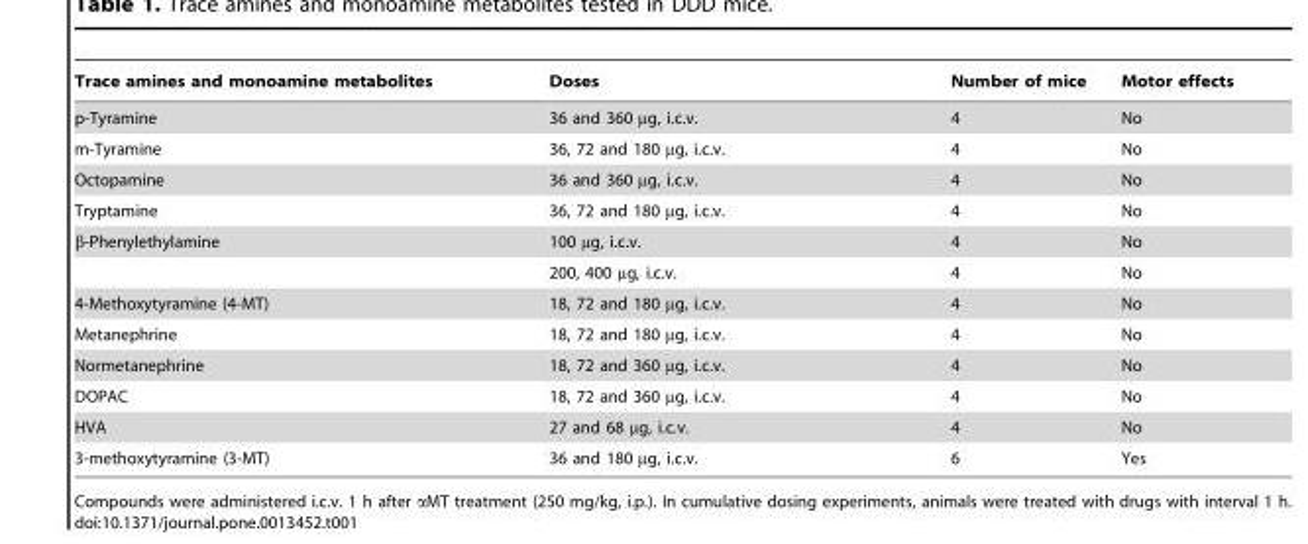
<table><thead><tr><td>Trace amines and monoamine metabolites</td><td>Doses</td><td>Number of mice</td><td>Motor effects</td></tr></thead><tbody><tr><td>p-Tyramine</td><td>36 and 360 µg, i.c.v.</td><td>4</td><td>No</td></tr><tr><td>m-Tyramine</td><td>36, 72 and 180 µg, i.c.v.</td><td>4</td><td>No</td></tr><tr><td>Octopamine</td><td>36 and 360 µg, i.c.v.</td><td>4</td><td>No</td></tr><tr><td>Tryptamine</td><td>36, 72 and 180 µg, i.c.v.</td><td>4</td><td>No</td></tr><tr><td rowspan="2">β-Phenylethylamine</td><td>100 µg, i.c.v.</td><td>4</td><td>No</td></tr><tr><td>200, 400 µg, i.c.v.</td><td>4</td><td>No</td></tr><tr><td>4-Methoxytyramine (4-MT)</td><td>18, 72 and 180 µg, i.c.v.</td><td>4</td><td>No</td></tr><tr><td>Metanephrine</td><td>18, 72 and 180 µg, i.c.v.</td><td>4</td><td>No</td></tr><tr><td>Normetanephrine</td><td>18, 72 and 360 µg, i.c.v.</td><td>4</td><td>No</td></tr><tr><td>DOPAC</td><td>18, 72 and 360 µg, i.c.v.</td><td>4</td><td>No</td></tr><tr><td>HVA</td><td>27 and 68 µg, i.c.v.</td><td>4</td><td>No</td></tr><tr><td>3-methoxytyramine (3-MT)</td><td>36 and 180 µg, i.c.v.</td><td>6</td><td>Yes</td></tr></tbody></table>